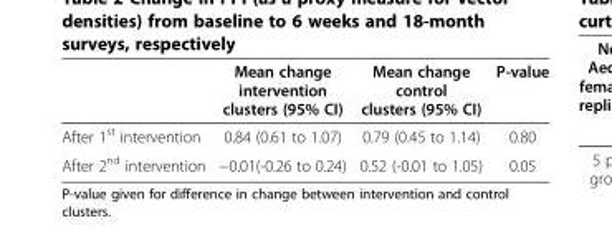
<table><thead><tr><td></td><td>Mean change intervention clusters (95% CI)</td><td>Mean change control clusters (95% CI)</td><td>P-value</td></tr></thead><tbody><tr><td>After 1<sup>st</sup> intervention</td><td>0.84 (0.61 to 1.07)</td><td>0.79 (0.45 to 1.14)</td><td>0.80</td></tr><tr><td>After 2<sup>nd</sup> intervention</td><td>−0.01(-0.26 to 0.24)</td><td>0.52 (-0.01 to 1.05)</td><td>0.05</td></tr></tbody></table>